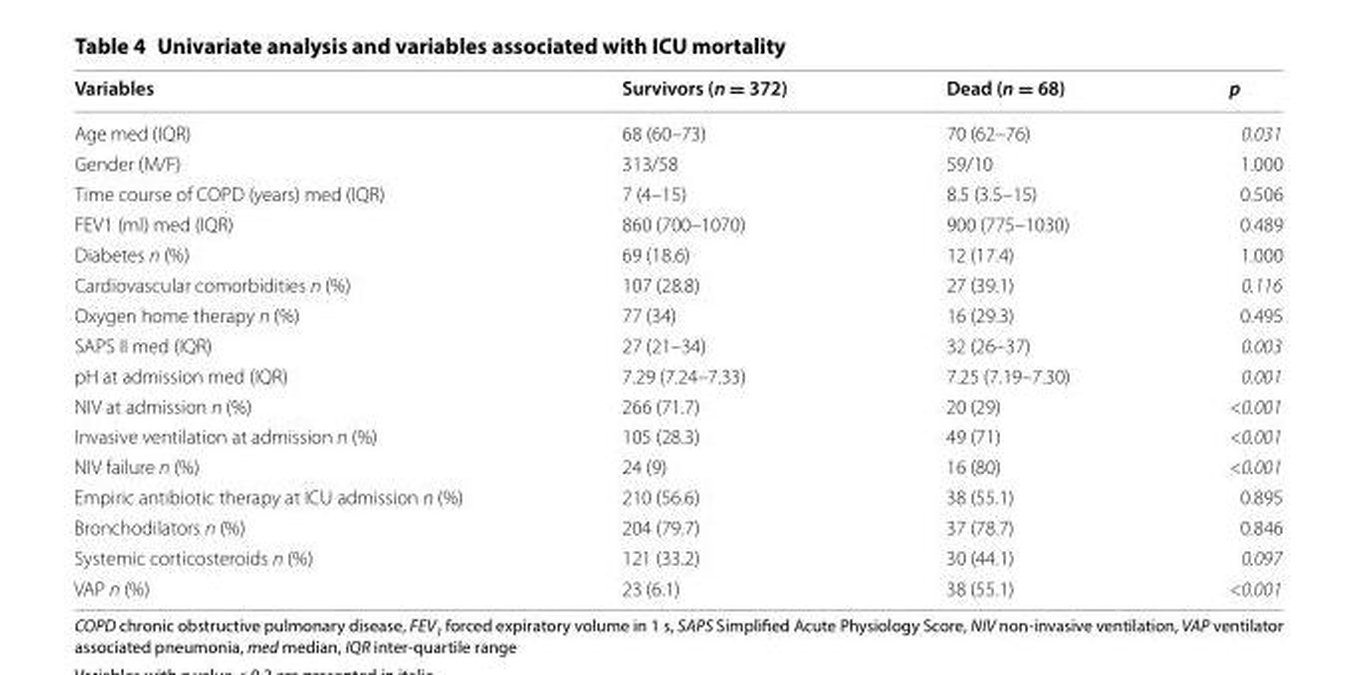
<table><thead><tr><td>Variables</td><td>Survivors (n = 372)</td><td>Dead (n = 68)</td><td>p</td></tr></thead><tbody><tr><td>Age med (IQR)</td><td>68 (60–73)</td><td>70 (62–76)</td><td>0.031</td></tr><tr><td>Gender (M/F)</td><td>313/58</td><td>59/10</td><td>1.000</td></tr><tr><td>Time course of COPD (years) med (IQR)</td><td>7 (4–15)</td><td>8.5 (3.5–15)</td><td>0.506</td></tr><tr><td>FEV1 (ml) med (IQR)</td><td>860 (700–1070)</td><td>900 (775–1030)</td><td>0.489</td></tr><tr><td>Diabetes n (%)</td><td>69 (18.6)</td><td>12 (17.4)</td><td>1.000</td></tr><tr><td>Cardiovascular comorbidities n (%)</td><td>107 (28.8)</td><td>27 (39.1)</td><td>0.116</td></tr><tr><td>Oxygen home therapy n (%)</td><td>77 (34)</td><td>16 (29.3)</td><td>0.495</td></tr><tr><td>SAPS II med (IQR)</td><td>27 (21–34)</td><td>32 (26–37)</td><td>0.003</td></tr><tr><td>pH at admission med (IQR)</td><td>7.29 (7.24–7.33)</td><td>7.25 (7.19–7.30)</td><td>0.001</td></tr><tr><td>NIV at admission n (%)</td><td>266 (71.7)</td><td>20 (29)</td><td>&lt;0.001</td></tr><tr><td>Invasive ventilation at admission n (%)</td><td>105 (28.3)</td><td>49 (71)</td><td>&lt;0.001</td></tr><tr><td>NIV failure n (%)</td><td>24 (9)</td><td>16 (80)</td><td>&lt;0.001</td></tr><tr><td>Empiric antibiotic therapy at ICU admission n (%)</td><td>210 (56.6)</td><td>38 (55.1)</td><td>0.895</td></tr><tr><td>Bronchodilators n (%)</td><td>204 (79.7)</td><td>37 (78.7)</td><td>0.846</td></tr><tr><td>Systemic corticosteroids n (%)</td><td>121 (33.2)</td><td>30 (44.1)</td><td>0.097</td></tr><tr><td>VAP n (%)</td><td>23 (6.1)</td><td>38 (55.1)</td><td>&lt;0.001</td></tr></tbody></table>